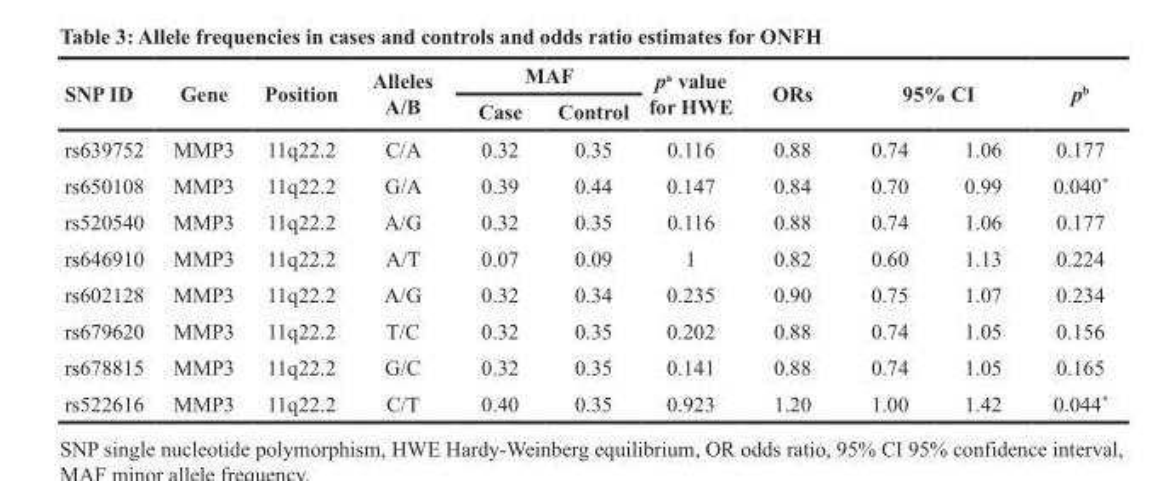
<table><thead><tr><td rowspan="3">SNP ID rs639752</td><td rowspan="3">Gene MMP3</td><td rowspan="3">Position 11q22.2</td><td rowspan="3">Alleles A/B C/A</td><td colspan="2">MAF</td><td rowspan="3">p<sup>a</sup> value for HWE 0.116</td><td rowspan="3">ORs 0.88</td><td rowspan="2" colspan="2">95% CI</td><td rowspan="3">p<sup>b</sup> 0.177</td></tr><tr><td rowspan="2">Case 0.32</td><td rowspan="2">Control 0.35</td></tr><tr><td>0.74</td><td>1.06</td></tr></thead><tbody><tr><td>rs650108</td><td>MMP3</td><td>11q22.2</td><td>G/A</td><td>0.39</td><td>0.44</td><td>0.147</td><td>0.84</td><td>0.70</td><td>0.99</td><td>0.040*</td></tr><tr><td>rs520540</td><td>MMP3</td><td>11q22.2</td><td>A/G</td><td>0.32</td><td>0.35</td><td>0.116</td><td>0.88</td><td>0.74</td><td>1.06</td><td>0.177</td></tr><tr><td>rs646910</td><td>MMP3</td><td>11q22.2</td><td>A/T</td><td>0.07</td><td>0.09</td><td>1</td><td>0.82</td><td>0.60</td><td>1.13</td><td>0.224</td></tr><tr><td>rs602128</td><td>MMP3</td><td>11q22.2</td><td>A/G</td><td>0.32</td><td>0.34</td><td>0.235</td><td>0.90</td><td>0.75</td><td>1.07</td><td>0.234</td></tr><tr><td>rs679620</td><td>MMP3</td><td>11q22.2</td><td>T/C</td><td>0.32</td><td>0.35</td><td>0.202</td><td>0.88</td><td>0.74</td><td>1.05</td><td>0.156</td></tr><tr><td>rs678815</td><td>MMP3</td><td>11q22.2</td><td>G/C</td><td>0.32</td><td>0.35</td><td>0.141</td><td>0.88</td><td>0.74</td><td>1.05</td><td>0.165</td></tr><tr><td>rs522616</td><td>MMP3</td><td>11q22.2</td><td>C/T</td><td>0.40</td><td>0.35</td><td>0.923</td><td>1.20</td><td>1.00</td><td>1.42</td><td>0.044*</td></tr></tbody></table>